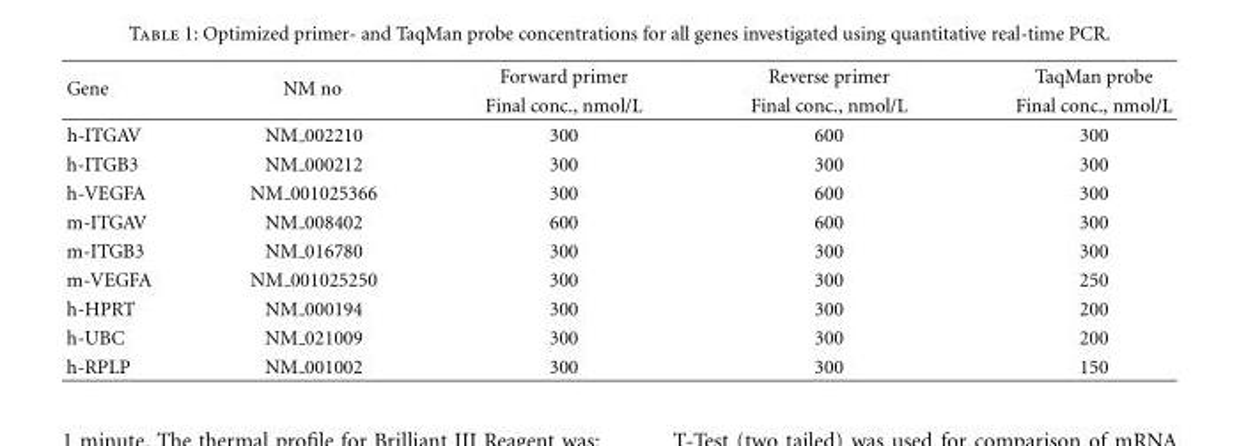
<table><thead><tr><td rowspan="2">Gene</td><td rowspan="2">NM no</td><td rowspan="2">Forward primer Final conc., nmol/L</td><td rowspan="2">Reverse primer Final conc., nmol/L</td><td rowspan="2">TaqMan probe Final conc., nmol/L</td></tr><tr></tr></thead><tbody><tr><td>h-ITGAV</td><td>NM 002210</td><td>300</td><td>600</td><td>300</td></tr><tr><td>h-ITGB3</td><td>NM 000212</td><td>300</td><td>300</td><td>300</td></tr><tr><td>h-VEGFA</td><td>NM 001025366</td><td>300</td><td>600</td><td>300</td></tr><tr><td>m-ITGAV</td><td>NM 008402</td><td>600</td><td>600</td><td>300</td></tr><tr><td>m-ITGB3</td><td>NM 016780</td><td>300</td><td>300</td><td>300</td></tr><tr><td>m-VEGFA</td><td>NM 001025250</td><td>300</td><td>300</td><td>250</td></tr><tr><td>h-HPRT</td><td>NM 000194</td><td>300</td><td>300</td><td>200</td></tr><tr><td>h-UBC</td><td>NM 021009</td><td>300</td><td>300</td><td>200</td></tr><tr><td>h-RPLP</td><td>NM 001002</td><td>300</td><td>300</td><td>150</td></tr></tbody></table>